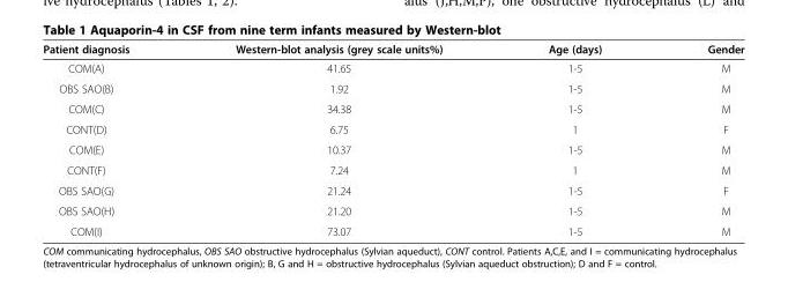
<table><thead><tr><td>Patient diagnosis</td><td>Western-blot analysis (grey scale units%)</td><td>Age (days)</td><td>Gender</td></tr></thead><tbody><tr><td>COM(A)</td><td>41.65</td><td>1-5</td><td>M</td></tr><tr><td>OBS SAO(B)</td><td>1.92</td><td>1-5</td><td>M</td></tr><tr><td>COM(C)</td><td>34.38</td><td>1-5</td><td>M</td></tr><tr><td>CONT(D)</td><td>6.75</td><td>1</td><td>F</td></tr><tr><td>COM(E)</td><td>10.37</td><td>1-5</td><td>M</td></tr><tr><td>CONT(F)</td><td>7.24</td><td>1</td><td>M</td></tr><tr><td>OBS SAO(G)</td><td>21.24</td><td>1-5</td><td>F</td></tr><tr><td>OBS SAO(H)</td><td>21.20</td><td>1-5</td><td>M</td></tr><tr><td>COM(I)</td><td>73.07</td><td>1-5</td><td>M</td></tr></tbody></table>